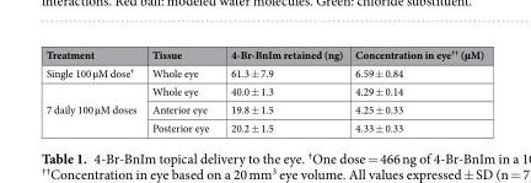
<table><thead><tr><td>Treatment</td><td>Tissue</td><td>4-Br-BnIm retained (ng)</td><td>Concentration in eye<sup>††</sup> (µM)</td></tr></thead><tbody><tr><td>Single 100 µM dose<sup>†</sup></td><td>Whole eye</td><td>61.3 ± 7.9</td><td>6.59 ± 0.84</td></tr><tr><td rowspan="3">7 daily 100 µM doses</td><td>Whole eye</td><td>40.0 ± 1.3</td><td>4.29 ± 0.14</td></tr><tr><td>Anterior eye</td><td>19.8 ± 1.5</td><td>4.25 ± 0.33</td></tr><tr><td>Posterior eye</td><td>20.2 ± 1.5</td><td>4.33 ± 0.33</td></tr></tbody></table>